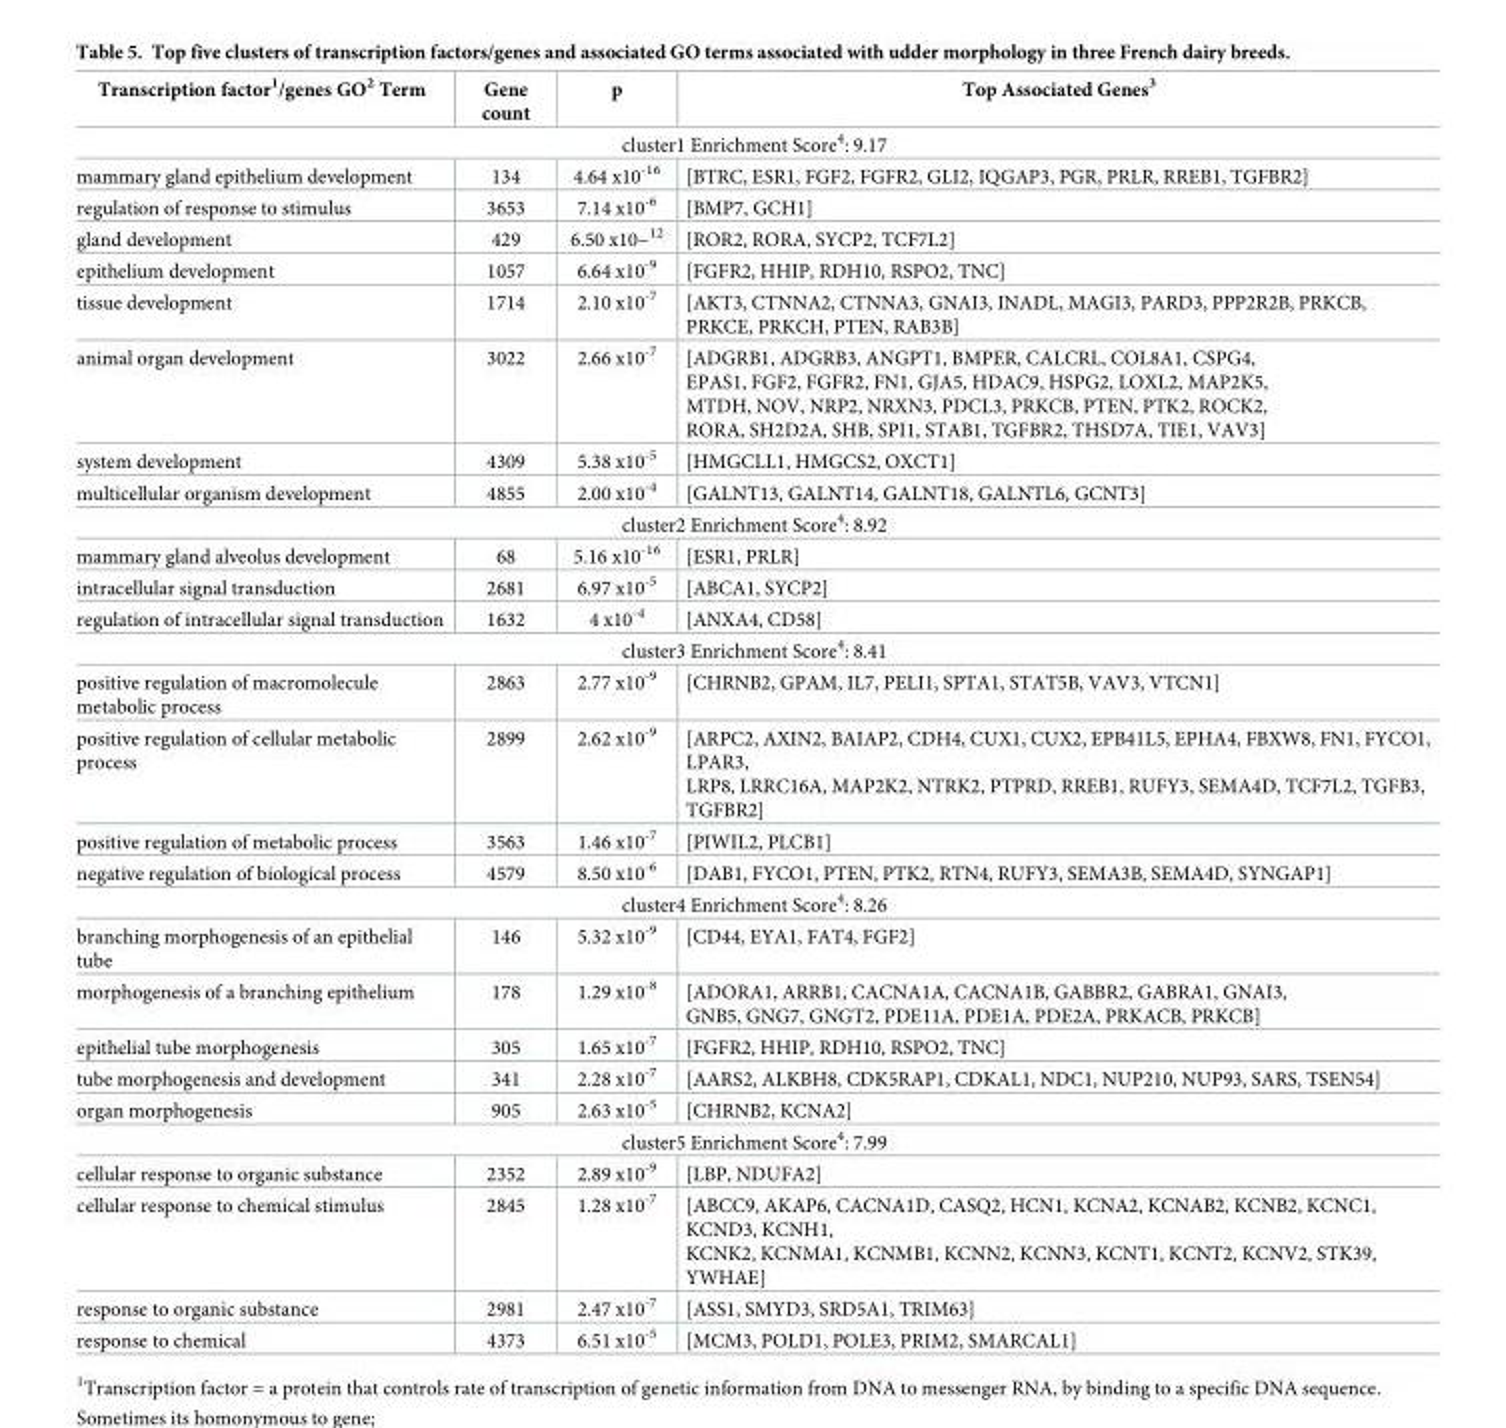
<table><thead><tr><td>Transcription factor<sup>1</sup>/genes GO<sup>2</sup> Term</td><td>Gene count</td><td>p</td><td>Top Associated Genes<sup>3</sup></td></tr></thead><tbody><tr><td colspan="4">cluster1 Enrichment Score<sup>4</sup>: 9.17</td></tr><tr><td>mammary gland epithelium development</td><td>134</td><td>4.64 x10<sup>-16</sup></td><td>[BTRC, ESR1, FGF2, FGFR2, GLI2, IQGAP3, PGR, PRLR, RREB1, TGFBR2]</td></tr><tr><td>regulation of response to stimulus</td><td>3653</td><td>7.14 x10<sup>-6</sup></td><td>[BMP7, GCH1]</td></tr><tr><td>gland development</td><td>429</td><td>6.50 x10−<sup>12</sup></td><td>[ROR2, RORA, SYCP2, TCF7L2]</td></tr><tr><td>epithelium development</td><td>1057</td><td>6.64 x10<sup>-9</sup></td><td>[FGFR2, HHIP, RDH10, RSPO2, TNC]</td></tr><tr><td>tissue development</td><td>1714</td><td>2.10 x10<sup>-7</sup></td><td>[AKT3, CTNNA2, CTNNA3, GNAI3, INADL, MAGI3, PARD3, PPP2R2B, PRKCB, PRKCE, PRKCH, PTEN, RAB3B]</td></tr><tr><td>animal organ development</td><td>3022</td><td>2.66 x10<sup>-7</sup></td><td>[ADGRB1, ADGRB3, ANGPT1, BMPER, CALCRL, COL8A1, CSPG4, EPAS1, FGF2, FGFR2, FN1, GJA5, HDAC9, HSPG2, LOXL2, MAP2K5, MTDH, NOV, NRP2, NRXN3, PDCL3, PRKCB, PTEN, PTK2, ROCK2, RORA, SH2D2A, SHB, SPI1, STAB1, TGFBR2, THSD7A, TIE1, VAV3]</td></tr><tr><td>system development</td><td>4309</td><td>5.38 x10<sup>-5</sup></td><td>[HMGCLL1, HMGCS2, OXCT1]</td></tr><tr><td>multicellular organism development</td><td>4855</td><td>2.00 x10<sup>-4</sup></td><td>[GALNT13, GALNT14, GALNT18, GALNTL6, GCNT3]</td></tr><tr><td colspan="4">cluster2 Enrichment Score<sup>4</sup>: 8.92</td></tr><tr><td>mammary gland alveolus development</td><td>68</td><td>5.16 x10<sup>-16</sup></td><td>[ESR1, PRLR]</td></tr><tr><td>intracellular signal transduction</td><td>2681</td><td>6.97 x10<sup>-5</sup></td><td>[ABCA1, SYCP2]</td></tr><tr><td>regulation of intracellular signal transduction</td><td>1632</td><td>4 x10<sup>-4</sup></td><td>[ANXA4, CD58]</td></tr><tr><td colspan="4">cluster3 Enrichment Score<sup>4</sup>: 8.41</td></tr><tr><td>positive regulation of macromolecule metabolic process</td><td>2863</td><td>2.77 x10<sup>-9</sup></td><td>[CHRNB2, GPAM, IL7, PELI1, SPTA1, STAT5B, VAV3, VTCN1]</td></tr><tr><td>positive regulation of cellular metabolic process</td><td>2899</td><td>2.62 x10<sup>-9</sup></td><td>[ARPC2, AXIN2, BAIAP2, CDH4, CUX1, CUX2, EPB41L5, EPHA4, FBXW8, FN1, FYCO1, LPAR3, LRP8, LRRC16A, MAP2K2, NTRK2, PTPRD, RREB1, RUFY3, SEMA4D, TCF7L2, TGFB3, TGFBR2]</td></tr><tr><td>positive regulation of metabolic process</td><td>3563</td><td>1.46 x10<sup>-7</sup></td><td>[PIWIL2, PLCB1]</td></tr><tr><td>negative regulation of biological process</td><td>4579</td><td>8.50 x10<sup>-6</sup></td><td>[DAB1, FYCO1, PTEN, PTK2, RTN4, RUFY3, SEMA3B, SEMA4D, SYNGAP1]</td></tr><tr><td colspan="4">cluster4 Enrichment Score<sup>4</sup>: 8.26</td></tr><tr><td>branching morphogenesis of an epithelial tube</td><td>146</td><td>5.32 x10<sup>-9</sup></td><td>[CD44, EYA1, FAT4, FGF2]</td></tr><tr><td>morphogenesis of a branching epithelium</td><td>178</td><td>1.29 x10<sup>-8</sup></td><td>[ADORA1, ARRB1, CACNA1A, CACNA1B, GABBR2, GABRA1, GNAI3, GNB5, GNG7, GNGT2, PDE11A, PDE1A, PDE2A, PRKACB, PRKCB]</td></tr><tr><td>epithelial tube morphogenesis</td><td>305</td><td>1.65 x10<sup>-7</sup></td><td>[FGFR2, HHIP, RDH10, RSPO2, TNC]</td></tr><tr><td>tube morphogenesis and development</td><td>341</td><td>2.28 x10<sup>-7</sup></td><td>[AARS2, ALKBH8, CDK5RAP1, CDKAL1, NDC1, NUP210, NUP93, SARS, TSEN54]</td></tr><tr><td>organ morphogenesis</td><td>905</td><td>2.63 x10<sup>-5</sup></td><td>[CHRNB2, KCNA2]</td></tr><tr><td colspan="4">cluster5 Enrichment Score<sup>4</sup>: 7.99</td></tr><tr><td>cellular response to organic substance</td><td>2352</td><td>2.89 x10<sup>-9</sup></td><td>[LBP, NDUFA2]</td></tr><tr><td>cellular response to chemical stimulus</td><td>2845</td><td>1.28 x10<sup>-7</sup></td><td>[ABCC9, AKAP6, CACNA1D, CASQ2, HCN1, KCNA2, KCNAB2, KCNB2, KCNC1, KCND3, KCNH1, KCNK2, KCNMA1, KCNMB1, KCNN2, KCNN3, KCNT1, KCNT2, KCNV2, STK39, YWHAE]</td></tr><tr><td>response to organic substance</td><td>2981</td><td>2.47 x10<sup>-7</sup></td><td>[ASS1, SMYD3, SRD5A1, TRIM63]</td></tr><tr><td>response to chemical</td><td>4373</td><td>6.51 x10<sup>-5</sup></td><td>[MCM3, POLD1, POLE3, PRIM2, SMARCAL1]</td></tr></tbody></table>